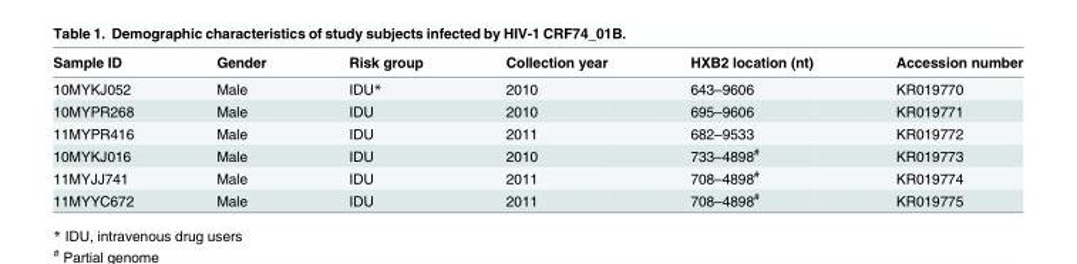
<table><thead><tr><td>Sample ID</td><td>Gender</td><td>Risk group</td><td>Collection year</td><td>HXB2 location (nt)</td><td>Accession number</td></tr></thead><tbody><tr><td>10MYKJ052</td><td>Male</td><td>IDU*</td><td>2010</td><td>643–9606</td><td>KR019770</td></tr><tr><td>10MYPR268</td><td>Male</td><td>IDU</td><td>2010</td><td>695–9606</td><td>KR019771</td></tr><tr><td>11MYPR416</td><td>Male</td><td>IDU</td><td>2011</td><td>682–9533</td><td>KR019772</td></tr><tr><td>10MYKJ016</td><td>Male</td><td>IDU</td><td>2010</td><td>733–4898<sup>#</sup></td><td>KR019773</td></tr><tr><td>11MYJJ741</td><td>Male</td><td>IDU</td><td>2011</td><td>708–4898<sup>#</sup></td><td>KR019774</td></tr><tr><td>11MYYC672</td><td>Male</td><td>IDU</td><td>2011</td><td>708–4898<sup>#</sup></td><td>KR019775</td></tr></tbody></table>